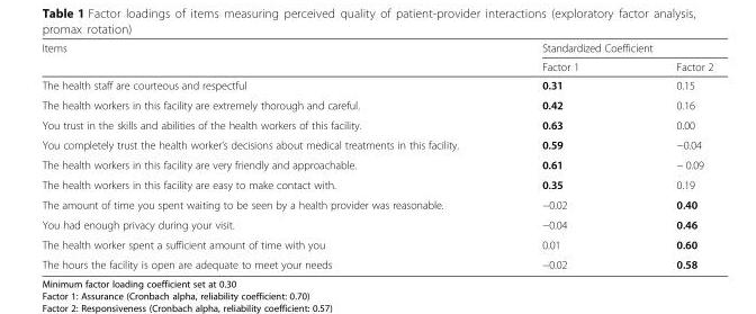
<table><thead><tr><td rowspan="2">Items</td><td colspan="2">Standardized Coefficient</td></tr><tr><td>Factor 1</td><td>Factor 2</td></tr></thead><tbody><tr><td>The health staff are courteous and respectful</td><td>0.31</td><td>0.15</td></tr><tr><td>The health workers in this facility are extremely thorough and careful.</td><td>0.42</td><td>0.16</td></tr><tr><td>You trust in the skills and abilities of the health workers of this facility.</td><td>0.63</td><td>0.00</td></tr><tr><td>You completely trust the health worker’s decisions about medical treatments in this facility.</td><td>0.59</td><td>−0.04</td></tr><tr><td>The health workers in this facility are very friendly and approachable.</td><td>0.61</td><td>− 0.09</td></tr><tr><td>The health workers in this facility are easy to make contact with.</td><td>0.35</td><td>0.19</td></tr><tr><td>The amount of time you spent waiting to be seen by a health provider was reasonable.</td><td>−0.02</td><td>0.40</td></tr><tr><td>You had enough privacy during your visit.</td><td>−0.04</td><td>0.46</td></tr><tr><td>The health worker spent a sufficient amount of time with you</td><td>0.01</td><td>0.60</td></tr><tr><td>The hours the facility is open are adequate to meet your needs</td><td>−0.02</td><td>0.58</td></tr></tbody></table>